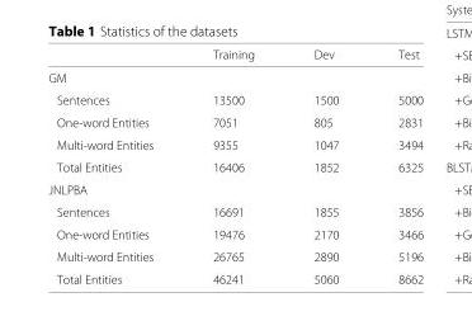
<table><thead><tr><td></td><td>Training</td><td>Dev</td><td>Test</td></tr></thead><tbody><tr><td colspan="4">GM</td></tr><tr><td>Sentences</td><td>13500</td><td>1500</td><td>5000</td></tr><tr><td>One-word Entities</td><td>7051</td><td>805</td><td>2831</td></tr><tr><td>Multi-word Entities</td><td>9355</td><td>1047</td><td>3494</td></tr><tr><td>Total Entities</td><td>16406</td><td>1852</td><td>6325</td></tr><tr><td colspan="4">JNLPBA</td></tr><tr><td>Sentences</td><td>16691</td><td>1855</td><td>3856</td></tr><tr><td>One-word Entities</td><td>19476</td><td>2170</td><td>3466</td></tr><tr><td>Multi-word Entities</td><td>26765</td><td>2890</td><td>5196</td></tr><tr><td>Total Entities</td><td>46241</td><td>5060</td><td>8662</td></tr></tbody></table>